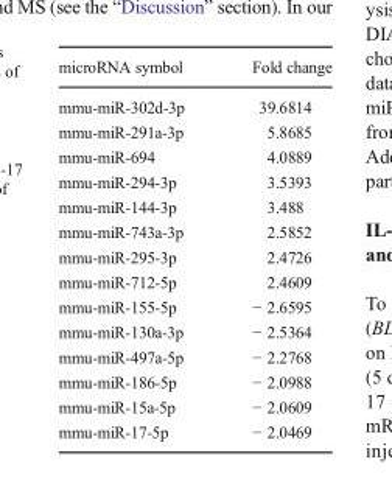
<table><thead><tr><td>microRNA symbol</td><td>Fold change</td></tr></thead><tbody><tr><td>mmu-miR-302d-3p</td><td>39.6814</td></tr><tr><td>mmu-miR-291a-3p</td><td>5.8685</td></tr><tr><td>mmu-miR-694</td><td>4.0889</td></tr><tr><td>mmu-miR-294-3p</td><td>3.5393</td></tr><tr><td>mmu-miR-144-3p</td><td>3.488</td></tr><tr><td>mmu-miR-743a-3p</td><td>2.5852</td></tr><tr><td>mmu-miR-295-3p</td><td>2.4726</td></tr><tr><td>mmu-miR-712-5p</td><td>2.4609</td></tr><tr><td>mmu-miR-155-5p</td><td>− 2.6595</td></tr><tr><td>mmu-miR-130a-3p</td><td>− 2.5364</td></tr><tr><td>mmu-miR-497a-5p</td><td>− 2.2768</td></tr><tr><td>mmu-miR-186-5p</td><td>− 2.0988</td></tr><tr><td>mmu-miR-15a-5p</td><td>− 2.0609</td></tr><tr><td>mmu-miR-17-5p</td><td>− 2.0469</td></tr></tbody></table>